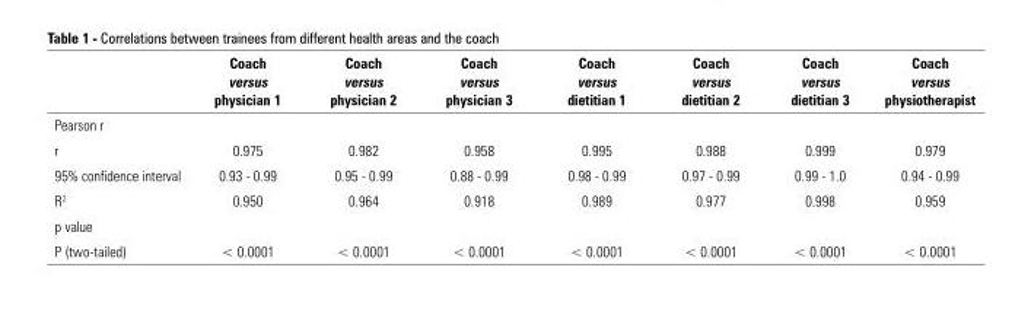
<table><thead><tr><td></td><td>Coach versus physician 1</td><td>Coach versus physician 2</td><td>Coach versus physician 3</td><td>Coach versus dietitian 1</td><td>Coach versus dietitian 2</td><td>Coach versus dietitian 3</td><td>Coach versus physiotherapist</td></tr></thead><tbody><tr><td colspan="8">Pearson r</td></tr><tr><td>r</td><td>0.975</td><td>0.982</td><td>0.958</td><td>0.995</td><td>0.988</td><td>0.999</td><td>0.979</td></tr><tr><td>95% confidence interval</td><td>0.93 - 0.99</td><td>0.95 - 0.99</td><td>0.88 - 0.99</td><td>0.98 - 0.99</td><td>0.97 - 0.99</td><td>0.99 - 1.0</td><td>0.94 - 0.99</td></tr><tr><td>R<sup>2</sup></td><td>0.950</td><td>0.964</td><td>0.918</td><td>0.989</td><td>0.977</td><td>0.998</td><td>0.959</td></tr><tr><td colspan="8">p value</td></tr><tr><td>P (two-tailed)</td><td>&lt; 0.0001</td><td>&lt; 0.0001</td><td>&lt; 0.0001</td><td>&lt; 0.0001</td><td>&lt; 0.0001</td><td>&lt; 0.0001</td><td>&lt; 0.0001</td></tr></tbody></table>